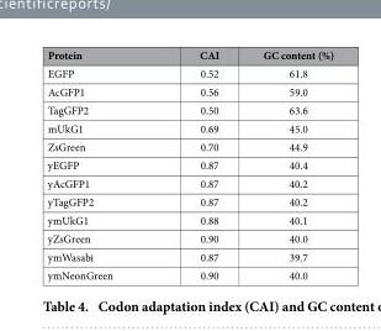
<table><thead><tr><td>Protein</td><td>CAI</td><td>GC content (%)</td></tr></thead><tbody><tr><td>EGFP</td><td>0.52</td><td>61.8</td></tr><tr><td>AcGFP1</td><td>0.56</td><td>59.0</td></tr><tr><td>TagGFP2</td><td>0.50</td><td>63.6</td></tr><tr><td>mUkG1</td><td>0.69</td><td>45.0</td></tr><tr><td>ZsGreen</td><td>0.70</td><td>44.9</td></tr><tr><td>yEGFP</td><td>0.87</td><td>40.4</td></tr><tr><td>yAcGFP1</td><td>0.87</td><td>40.2</td></tr><tr><td>yTagGFP2</td><td>0.87</td><td>40.2</td></tr><tr><td>ymUkG1</td><td>0.88</td><td>40.1</td></tr><tr><td>yZsGreen</td><td>0.90</td><td>40.0</td></tr><tr><td>ymWasabi</td><td>0.87</td><td>39.7</td></tr><tr><td>ymNeonGreen</td><td>0.90</td><td>40.0</td></tr></tbody></table>